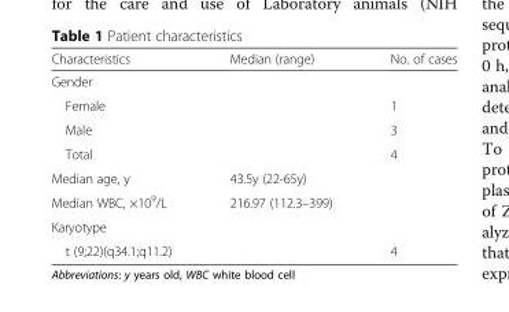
<table><thead><tr><td>Characteristics</td><td>Median (range)</td><td>No. of cases</td></tr></thead><tbody><tr><td colspan="3">Gender</td></tr><tr><td>Female</td><td></td><td>1</td></tr><tr><td>Male</td><td></td><td>3</td></tr><tr><td>Total</td><td></td><td>4</td></tr><tr><td>Median age, y</td><td>43.5y (22-65y)</td><td></td></tr><tr><td>Median WBC, ×10<sup>9</sup>/L</td><td>216.97 (112.3–399)</td><td></td></tr><tr><td colspan="3">Karyotype</td></tr><tr><td>t (9;22)(q34.1;q11.2)</td><td></td><td>4</td></tr></tbody></table>